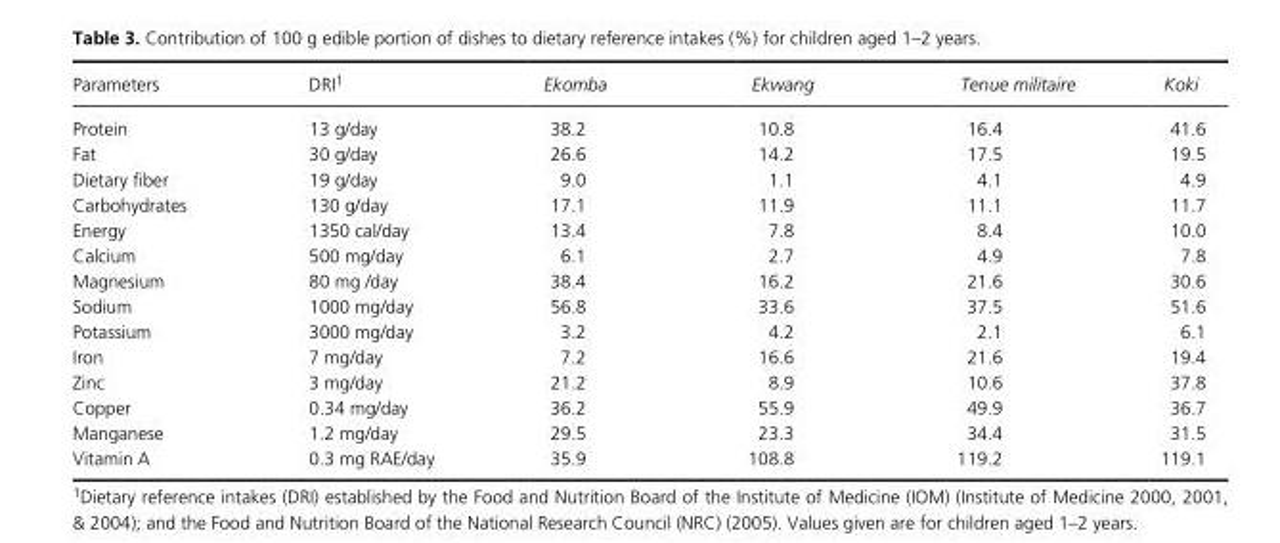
<table><thead><tr><td>Parameters</td><td>DRI1</td><td>Ekomba</td><td>Ekwang</td><td>Tenue militaire</td><td>Koki</td></tr></thead><tbody><tr><td>Protein</td><td>13 g/day</td><td>38.2</td><td>10.8</td><td>16.4</td><td>41.6</td></tr><tr><td>Fat</td><td>30 g/day</td><td>26.6</td><td>14.2</td><td>17.5</td><td>19.5</td></tr><tr><td>Dietary fiber</td><td>19 g/day</td><td>9.0</td><td>1.1</td><td>4.1</td><td>4.9</td></tr><tr><td>Carbohydrates</td><td>130 g/day</td><td>17.1</td><td>11.9</td><td>11.1</td><td>11.7</td></tr><tr><td>Energy</td><td>1350 cal/day</td><td>13.4</td><td>7.8</td><td>8.4</td><td>10.0</td></tr><tr><td>Calcium</td><td>500 mg/day</td><td>6.1</td><td>2.7</td><td>4.9</td><td>7.8</td></tr><tr><td>Magnesium</td><td>80 mg /day</td><td>38.4</td><td>16.2</td><td>21.6</td><td>30.6</td></tr><tr><td>Sodium</td><td>1000 mg/day</td><td>56.8</td><td>33.6</td><td>37.5</td><td>51.6</td></tr><tr><td>Potassium</td><td>3000 mg/day</td><td>3.2</td><td>4.2</td><td>2.1</td><td>6.1</td></tr><tr><td>Iron</td><td>7 mg/day</td><td>7.2</td><td>16.6</td><td>21.6</td><td>19.4</td></tr><tr><td>Zinc</td><td>3 mg/day</td><td>21.2</td><td>8.9</td><td>10.6</td><td>37.8</td></tr><tr><td>Copper</td><td>0.34 mg/day</td><td>36.2</td><td>55.9</td><td>49.9</td><td>36.7</td></tr><tr><td>Manganese</td><td>1.2 mg/day</td><td>29.5</td><td>23.3</td><td>34.4</td><td>31.5</td></tr><tr><td>Vitamin A</td><td>0.3 mg RAE/day</td><td>35.9</td><td>108.8</td><td>119.2</td><td>119.1</td></tr></tbody></table>